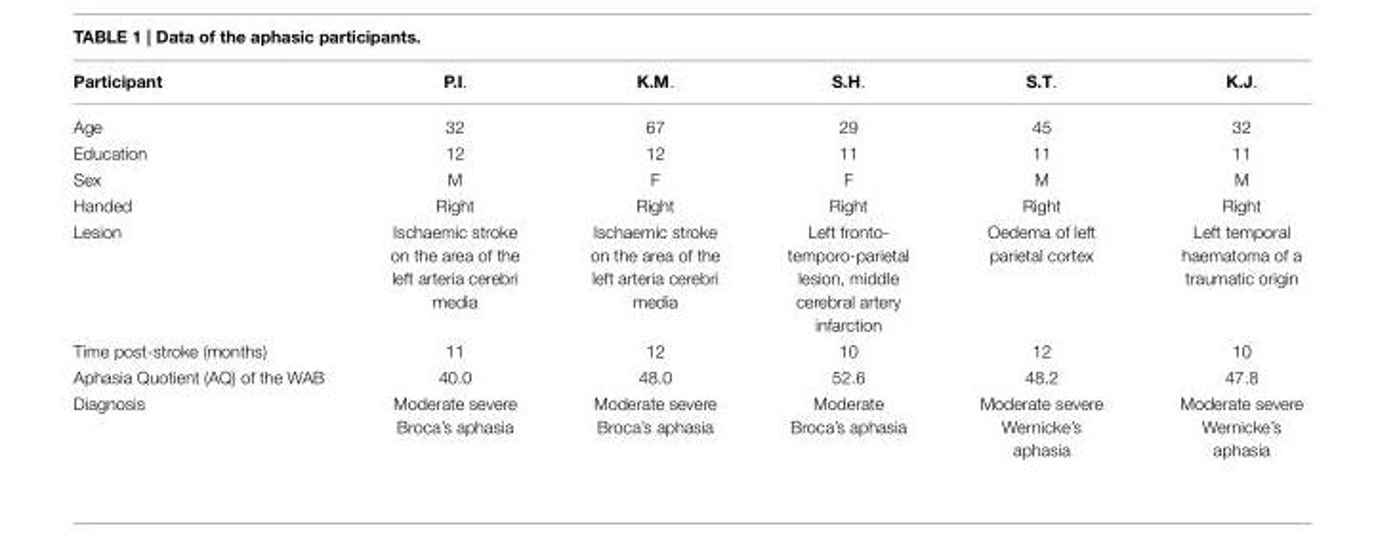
<table><thead><tr><td>Participant</td><td>P.I.</td><td>K.M.</td><td>S.H.</td><td>S.T.</td><td>K.J.</td></tr></thead><tbody><tr><td>Age</td><td>32</td><td>67</td><td>29</td><td>45</td><td>32</td></tr><tr><td>Education</td><td>12</td><td>12</td><td>11</td><td>11</td><td>11</td></tr><tr><td>Sex</td><td>M</td><td>F</td><td>F</td><td>M</td><td>M</td></tr><tr><td>Handed</td><td>Right</td><td>Right</td><td>Right</td><td>Right</td><td>Right</td></tr><tr><td>Lesion</td><td>Ischaemic stroke on the area of the left arteria cerebri media</td><td>Ischaemic stroke on the area of the left arteria cerebri media</td><td>Left fronto- temporo-parietal lesion, middle cerebral artery infarction</td><td>Oedema of left parietal cortex</td><td>Left temporal haematoma of a traumatic origin</td></tr><tr><td>Time post-stroke (months)</td><td>11</td><td>12</td><td>10</td><td>12</td><td>10</td></tr><tr><td>Aphasia Quotient (AQ) of the WAB</td><td>40.0</td><td>48.0</td><td>52.6</td><td>48.2</td><td>47.8</td></tr><tr><td>Diagnosis</td><td>Moderate severe Broca’s aphasia</td><td>Moderate severe Broca’s aphasia</td><td>Moderate Broca’s aphasia</td><td>Moderate severe Wernicke’s aphasia</td><td>Moderate severe Wernicke’s aphasia</td></tr></tbody></table>